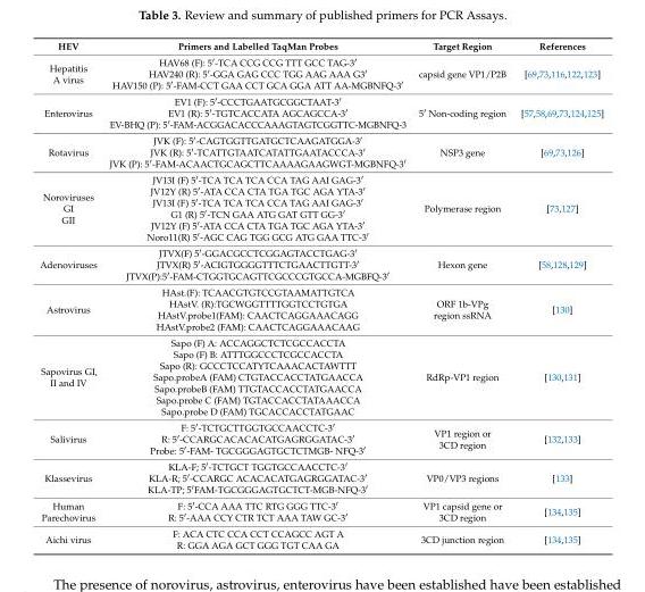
<table><thead><tr><td>HEV</td><td>Primers and Labelled TaqMan Probes</td><td>Target Region</td><td>References</td></tr></thead><tbody><tr><td>Hepatitis A virus</td><td>HAV68 (F): 5′-TCA CCG CCG TTT GCC TAG-3′ HAV240 (R): 5′-GGA GAG CCC TGG AAG AAA G3′ HAV150 (P): 5′-FAM-CCT GAA CCT GCA GGA ATT AA-MGBNFQ-3′</td><td>capsid gene VP1/P2B</td><td>[69,73,116,122,123]</td></tr><tr><td>Enterovirus</td><td>EV1 (F): 5′-CCCTGAATGCGGCTAAT-3′ EV1 (R): 5′-TGTCACCATA AGCAGCCA-3′ EV-BHQ (P): 5′-FAM-ACGGACACCCAAAGTAGTCGGTTC-MGBNFQ-3</td><td>5′ Non-coding region</td><td>[57,58,69,73,124,125]</td></tr><tr><td>Rotavirus</td><td>JVK (F): 5′-CAGTGGTTGATGCTCAAGATGGA-3′ JVK (R): 5′-TCATTGTAATCATATTGAATACCCA-3′ JVK (P): 5′-FAM-ACAACTGCAGCTTCAAAAGAAGWGT-MGBNFQ-3′</td><td>NSP3 gene</td><td>[69,73,126]</td></tr><tr><td>Noroviruses GI GII</td><td>JV13I (F) 5′-TCA TCA TCA CCA TAG AAI GAG-3′ JV12Y (R) 5′-ATA CCA CTA TGA TGC AGA YTA-3′ JV13I (F) 5′-TCA TCA TCA CCA TAG AAI GAG-3′ G1 (R) 5′-TCN GAA ATG GAT GTT GG-3′ JV12Y (F) 5′-ATA CCA CTA TGA TGC AGA YTA-3′ Noro11(R) 5′-AGC CAG TGG GCG ATG GAA TTC-3′</td><td>Polymerase region</td><td>[73,127]</td></tr><tr><td>Adenoviruses</td><td>JTVX(F) 5′-GGACGCCTCGGAGTACCTGAG-3′ JTVX(R) 5′-ACIGTGGGGTTTCTGAACTTGTT-3′ JTVX(P):5′-FAM-CTGGTGCAGTTCGCCCGTGCCA-MGBFQ-3′</td><td>Hexon gene</td><td>[58,128,129]</td></tr><tr><td>Astrovirus</td><td>HAst.(F): TCAACGTGTCCGTAAMATTGTCA HAstV. (R):TGCWGGTTTTGGTCCTGTGA HAstV.probe1(FAM): CAACTCAGGAAACAGG HAstV.probe2 (FAM): CAACTCAGGAAACAAG</td><td>ORF 1b-VPg region ssRNA</td><td>[130]</td></tr><tr><td>Sapovirus GI, II and IV</td><td>Sapo (F) A: ACCAGGCTCTCGCCACCTA Sapo (F) B: ATTTGGCCCTCGCCACCTA Sapo (R): GCCCTCCATYTCAAACACTAWTTT Sapo.probeA (FAM) CTGTACCACCTATGAACCA Sapo.probeB (FAM) TTGTACCACCTATGAACCA Sapo.probe C (FAM) TGTACCACCTATAAACCA Sapo.probe D (FAM) TGCACCACCTATGAAC</td><td>RdRp-VP1 region</td><td>[130,131]</td></tr><tr><td>Salivirus</td><td>F: 5′-TCTGCTTGGTGCCAACCTC-3′ R: 5′-CCARGCACACACATGAGRGGATAC-3′ Probe: 5′-FAM- TGCGGGAGTGCTCTMGB- NFQ-3′</td><td>VP1 region or 3CD region</td><td>[132,133]</td></tr><tr><td>Klassevirus</td><td>KLA-F; 5′-TCTGCT TGGTGCCAACCTC-3′ KLA-R; 5′-CCARGC ACACACATGAGRGGATAC-3′ KLA-TP; 5′FAM-TGCGGGAGTGCTCT-MGB-NFQ-3′</td><td>VP0/VP3 regions</td><td>[133]</td></tr><tr><td>Human Parechovirus</td><td>F: 5′-CCA AAA TTC RTG GGG TTC-3′ R: 5′-AAA CCY CTR TCT AAA TAW GC-3′</td><td>VP1 capsid gene or 3CD region</td><td>[134,135]</td></tr><tr><td>Aichi virus</td><td>F: ACA CTC CCA CCT CCAGCC AGT A R: GGA AGA GCT GGG TGT CAA GA</td><td>3CD junction region</td><td>[134,135]</td></tr></tbody></table>